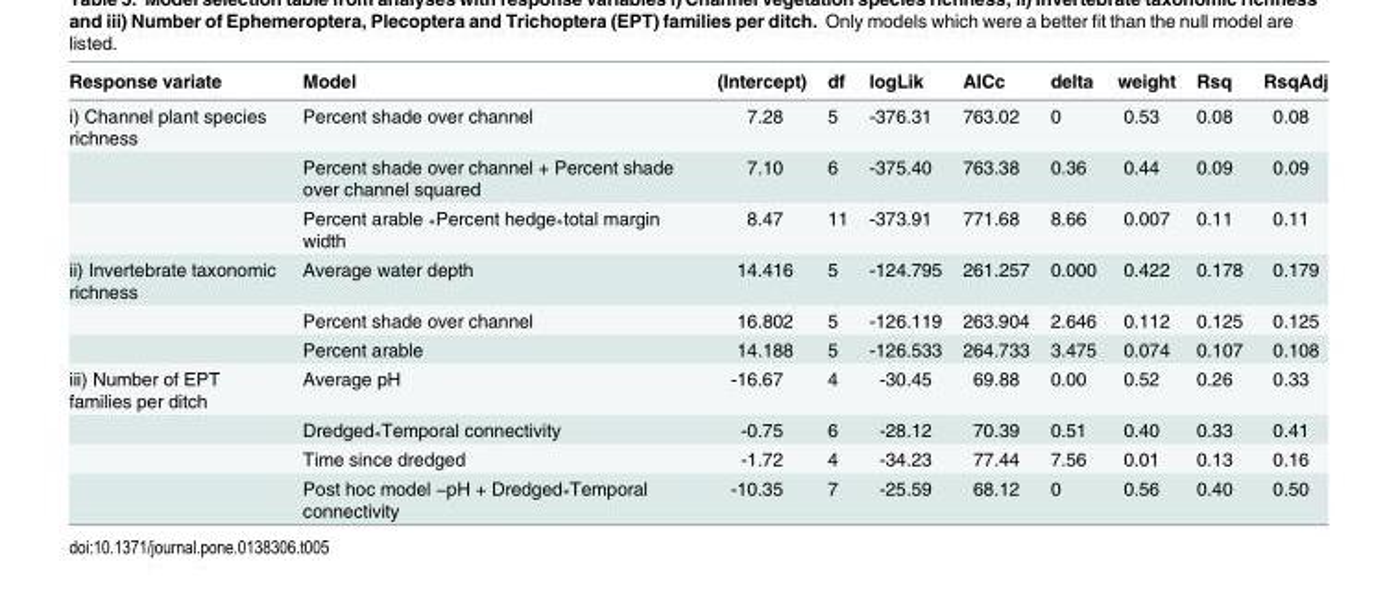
<table><thead><tr><td>Response variate</td><td>Model</td><td>(Intercept)</td><td>df</td><td>logLik</td><td>AICc</td><td>delta</td><td>weight</td><td>Rsq</td><td>RsqAdj</td></tr></thead><tbody><tr><td rowspan="3">i) Channel plant species richness</td><td>Percent shade over channel</td><td>7.28</td><td>5</td><td>-376.31</td><td>763.02</td><td>0</td><td>0.53</td><td>0.08</td><td>0.08</td></tr><tr><td>Percent shade over channel + Percent shade over channel squared</td><td>7.10</td><td>6</td><td>-375.40</td><td>763.38</td><td>0.36</td><td>0.44</td><td>0.09</td><td>0.09</td></tr><tr><td>Percent arable <sub>*</sub>Percent hedge<sub>*</sub>total margin width</td><td>8.47</td><td>11</td><td>-373.91</td><td>771.68</td><td>8.66</td><td>0.007</td><td>0.11</td><td>0.11</td></tr><tr><td rowspan="3">ii) Invertebrate taxonomic richness</td><td>Average water depth</td><td>14.416</td><td>5</td><td>-124.795</td><td>261.257</td><td>0.000</td><td>0.422</td><td>0.178</td><td>0.179</td></tr><tr><td>Percent shade over channel</td><td>16.802</td><td>5</td><td>-126.119</td><td>263.904</td><td>2.646</td><td>0.112</td><td>0.125</td><td>0.125</td></tr><tr><td>Percent arable</td><td>14.188</td><td>5</td><td>-126.533</td><td>264.733</td><td>3.475</td><td>0.074</td><td>0.107</td><td>0.108</td></tr><tr><td rowspan="4">iii) Number of EPT families per ditch</td><td>Average pH</td><td>-16.67</td><td>4</td><td>-30.45</td><td>69.88</td><td>0.00</td><td>0.52</td><td>0.26</td><td>0.33</td></tr><tr><td>Dredged<sub>*</sub>Temporal connectivity</td><td>-0.75</td><td>6</td><td>-28.12</td><td>70.39</td><td>0.51</td><td>0.40</td><td>0.33</td><td>0.41</td></tr><tr><td>Time since dredged</td><td>-1.72</td><td>4</td><td>-34.23</td><td>77.44</td><td>7.56</td><td>0.01</td><td>0.13</td><td>0.16</td></tr><tr><td>Post hoc model −pH + Dredged<sub>*</sub>Temporal connectivity</td><td>-10.35</td><td>7</td><td>-25.59</td><td>68.12</td><td>0</td><td>0.56</td><td>0.40</td><td>0.50</td></tr></tbody></table>